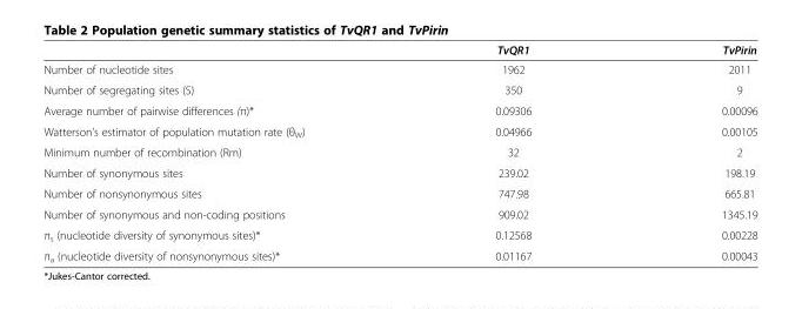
<table><thead><tr><td></td><td>TvQR1</td><td>TvPirin</td></tr></thead><tbody><tr><td>Number of nucleotide sites</td><td>1962</td><td>2011</td></tr><tr><td>Number of segregating sites (S)</td><td>350</td><td>9</td></tr><tr><td>Average number of pairwise differences (π)*</td><td>0.09306</td><td>0.00096</td></tr><tr><td>Watterson’s estimator of population mutation rate (θ<sub>W</sub>)</td><td>0.04966</td><td>0.00105</td></tr><tr><td>Minimum number of recombination (Rm)</td><td>32</td><td>2</td></tr><tr><td>Number of synonymous sites</td><td>239.02</td><td>198.19</td></tr><tr><td>Number of nonsynonymous sites</td><td>747.98</td><td>665.81</td></tr><tr><td>Number of synonymous and non-coding positions</td><td>909.02</td><td>1345.19</td></tr><tr><td>π<sub>s</sub> (nucleotide diversity of synonymous sites)*</td><td>0.12568</td><td>0.00228</td></tr><tr><td>π<sub>a</sub> (nucleotide diversity of nonsynonymous sites)*</td><td>0.01167</td><td>0.00043</td></tr></tbody></table>